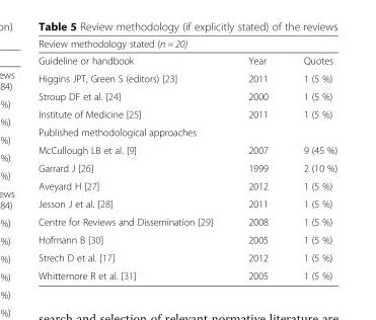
<table><thead><tr><td colspan="3">Review methodology stated (n = 20)</td></tr><tr><td>Guideline or handbook</td><td>Year</td><td>Quotes</td></tr></thead><tbody><tr><td>Higgins JPT, Green S (editors) [23]</td><td>2011</td><td>1 (5 %)</td></tr><tr><td>Stroup DF et al. [24]</td><td>2000</td><td>1 (5 %)</td></tr><tr><td>Institute of Medicine [25]</td><td>2011</td><td>1 (5 %)</td></tr><tr><td colspan="3">Published methodological approaches</td></tr><tr><td>McCullough LB et al. [9]</td><td>2007</td><td>9 (45 %)</td></tr><tr><td>Garrard J [26]</td><td>1999</td><td>2 (10 %)</td></tr><tr><td>Aveyard H [27]</td><td>2012</td><td>1 (5 %)</td></tr><tr><td>Jesson J et al. [28]</td><td>2011</td><td>1 (5 %)</td></tr><tr><td>Centre for Reviews and Dissemination [29]</td><td>2008</td><td>1 (5 %)</td></tr><tr><td>Hofmann B [30]</td><td>2005</td><td>1 (5 %)</td></tr><tr><td>Strech D et al. [17]</td><td>2012</td><td>1 (5 %)</td></tr><tr><td>Whittemore R et al. [31]</td><td>2005</td><td>1 (5 %)</td></tr></tbody></table>